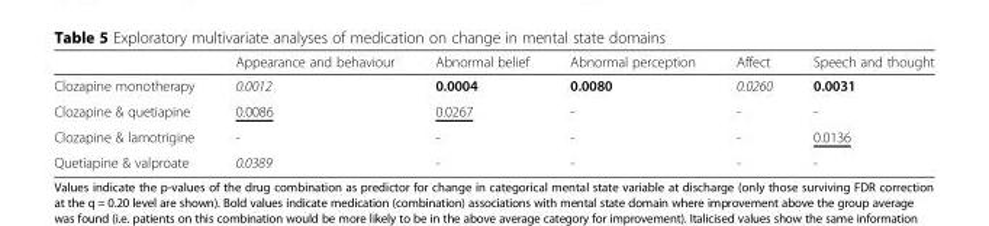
<table><thead><tr><td></td><td>Appearance and behaviour</td><td>Abnormal belief</td><td>Abnormal perception</td><td>Affect</td><td>Speech and thought</td></tr></thead><tbody><tr><td>Clozapine monotherapy</td><td>0.0012</td><td>0.0004</td><td>0.0080</td><td>0.0260</td><td>0.0031</td></tr><tr><td>Clozapine &amp; quetiapine</td><td>0.0086</td><td>0.0267</td><td>-</td><td>-</td><td>-</td></tr><tr><td>Clozapine &amp; lamotrigine</td><td>-</td><td>-</td><td>-</td><td>-</td><td>0.0136</td></tr><tr><td>Quetiapine &amp; valproate</td><td>0.0389</td><td>-</td><td>-</td><td>-</td><td>-</td></tr></tbody></table>